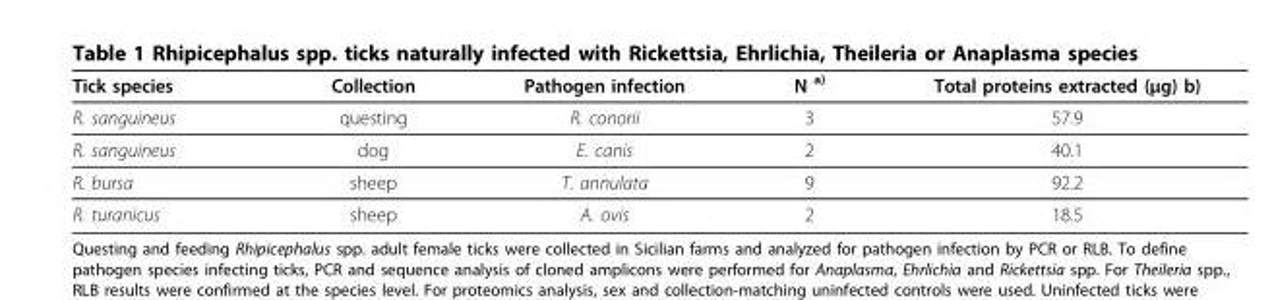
<table><thead><tr><td>Tick species</td><td>Collection</td><td>Pathogen infection</td><td>N <sup>a)</sup></td><td>Total proteins extracted (μg) b)</td></tr></thead><tbody><tr><td>R. sanguineus</td><td>questing</td><td>R. conorii</td><td>3</td><td>57.9</td></tr><tr><td>R. sanguineus</td><td>dog</td><td>E. canis</td><td>2</td><td>40.1</td></tr><tr><td>R. bursa</td><td>sheep</td><td>T. annulata</td><td>9</td><td>92.2</td></tr><tr><td>R. turanicus</td><td>sheep</td><td>A. ovis</td><td>2</td><td>18.5</td></tr></tbody></table>